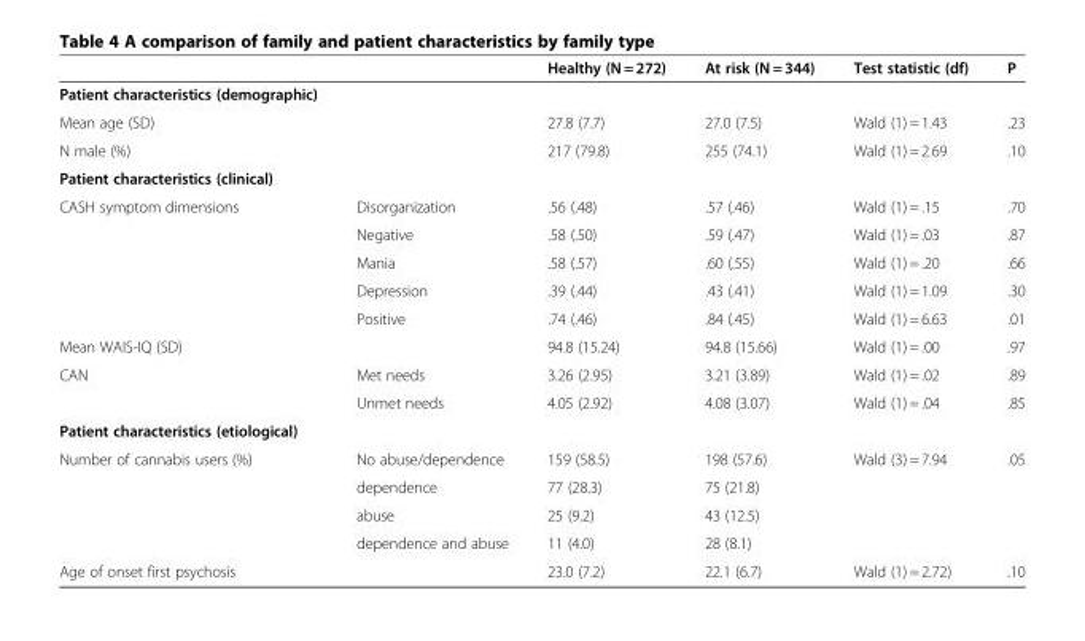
<table><thead><tr><td></td><td></td><td>Healthy (N = 272)</td><td>At risk (N = 344)</td><td>Test statistic (df)</td><td>P</td></tr></thead><tbody><tr><td colspan="6">Patient characteristics (demographic)</td></tr><tr><td>Mean age (SD)</td><td></td><td>27.8 (7.7)</td><td>27.0 (7.5)</td><td>Wald (1) = 1.43</td><td>.23</td></tr><tr><td>N male (%)</td><td></td><td>217 (79.8)</td><td>255 (74.1)</td><td>Wald (1) = 2.69</td><td>.10</td></tr><tr><td colspan="6">Patient characteristics (clinical)</td></tr><tr><td rowspan="5">CASH symptom dimensions</td><td>Disorganization</td><td>.56 (.48)</td><td>.57 (.46)</td><td>Wald (1) = .15</td><td>.70</td></tr><tr><td>Negative</td><td>.58 (.50)</td><td>.59 (.47)</td><td>Wald (1) = .03</td><td>.87</td></tr><tr><td>Mania</td><td>.58 (.57)</td><td>.60 (.55)</td><td>Wald (1) = .20</td><td>.66</td></tr><tr><td>Depression</td><td>.39 (.44)</td><td>.43 (.41)</td><td>Wald (1) = 1.09</td><td>.30</td></tr><tr><td>Positive</td><td>.74 (.46)</td><td>.84 (.45)</td><td>Wald (1) = 6.63</td><td>.01</td></tr><tr><td>Mean WAIS-IQ (SD)</td><td></td><td>94.8 (15.24)</td><td>94.8 (15.66)</td><td>Wald (1) = .00</td><td>.97</td></tr><tr><td rowspan="2">CAN</td><td>Met needs</td><td>3.26 (2.95)</td><td>3.21 (3.89)</td><td>Wald (1) = .02</td><td>.89</td></tr><tr><td>Unmet needs</td><td>4.05 (2.92)</td><td>4.08 (3.07)</td><td>Wald (1) = .04</td><td>.85</td></tr><tr><td colspan="6">Patient characteristics (etiological)</td></tr><tr><td rowspan="4">Number of cannabis users (%)</td><td>No abuse/dependence</td><td>159 (58.5)</td><td>198 (57.6)</td><td>Wald (3) = 7.94</td><td>.05</td></tr><tr><td>dependence</td><td>77 (28.3)</td><td>75 (21.8)</td><td></td><td></td></tr><tr><td>abuse</td><td>25 (9.2)</td><td>43 (12.5)</td><td></td><td></td></tr><tr><td>dependence and abuse</td><td>11 (4.0)</td><td>28 (8.1)</td><td></td><td></td></tr><tr><td>Age of onset first psychosis</td><td></td><td>23.0 (7.2)</td><td>22.1 (6.7)</td><td>Wald (1) = 2.72)</td><td>.10</td></tr></tbody></table>